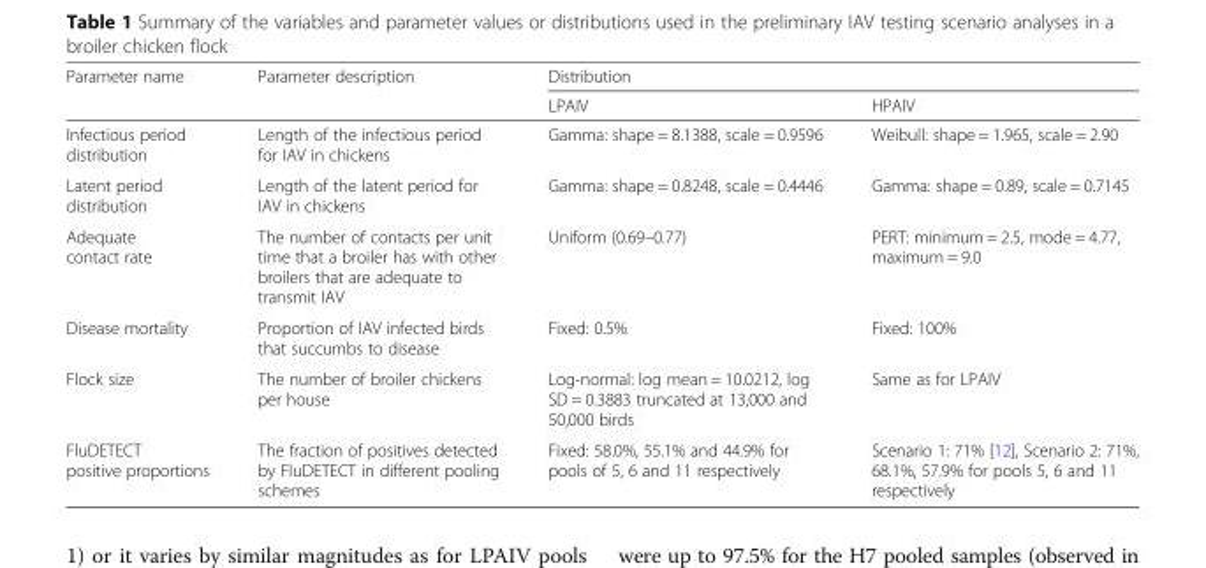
<table><thead><tr><td rowspan="2">Parameter name</td><td rowspan="2">Parameter description</td><td colspan="2">Distribution</td></tr><tr><td>LPAIV</td><td>HPAIV</td></tr></thead><tbody><tr><td>Infectious period distribution</td><td>Length of the infectious period for IAV in chickens</td><td>Gamma: shape = 8.1388, scale = 0.9596</td><td>Weibull: shape = 1.965, scale = 2.90</td></tr><tr><td>Latent period distribution</td><td>Length of the latent period for IAV in chickens</td><td>Gamma: shape = 0.8248, scale = 0.4446</td><td>Gamma: shape = 0.89, scale = 0.7145</td></tr><tr><td>Adequate contact rate</td><td>The number of contacts per unit time that a broiler has with other broilers that are adequate to transmit IAV</td><td>Uniform (0.69–0.77)</td><td>PERT: minimum = 2.5, mode = 4.77, maximum = 9.0</td></tr><tr><td>Disease mortality</td><td>Proportion of IAV infected birds that succumbs to disease</td><td>Fixed: 0.5%</td><td>Fixed: 100%</td></tr><tr><td>Flock size</td><td>The number of broiler chickens per house</td><td>Log-normal: log mean = 10.0212, log SD = 0.3883 truncated at 13,000 and 50,000 birds</td><td>Same as for LPAIV</td></tr><tr><td>FluDETECT positive proportions</td><td>The fraction of positives detected by FluDETECT in different pooling schemes</td><td>Fixed: 58.0%, 55.1% and 44.9% for pools of 5, 6 and 11 respectively</td><td>Scenario 1: 71% [12], Scenario 2: 71%, 68.1%, 57.9% for pools 5, 6 and 11 respectively</td></tr></tbody></table>